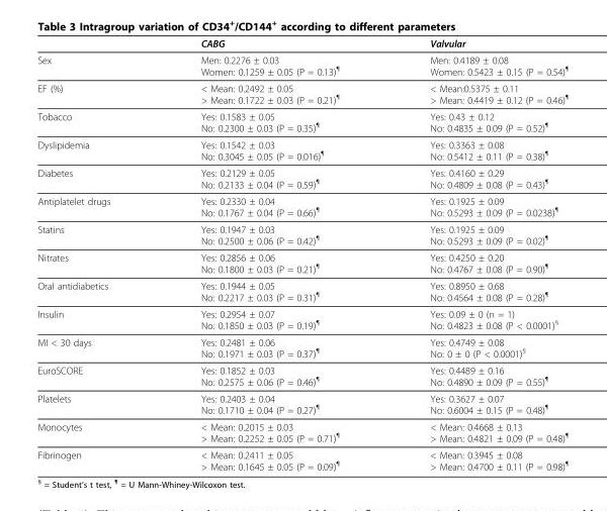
<table><thead><tr><td></td><td>CABG</td><td>Valvular</td></tr></thead><tbody><tr><td>Sex</td><td>Men: 0.2276 ± 0.03 Women: 0.1259 ± 0.05 (P = 0.13)¶</td><td>Men: 0.4189 ± 0.08 Women: 0.5423 ± 0.15 (P = 0.54)¶</td></tr><tr><td>EF (%)</td><td>&lt; Mean: 0.2492 ± 0.05 &gt; Mean: 0.1722 ± 0.03 (P = 0.21)¶</td><td>&lt; Mean:0.5375 ± 0.11 &gt; Mean: 0.4419 ± 0.12 (P = 0.46)¶</td></tr><tr><td>Tobacco</td><td>Yes: 0.1583 ± 0.05 No: 0.2300 ± 0.03 (P = 0.35)¶</td><td>Yes: 0.43 ± 0.12 No: 0.4835 ± 0.09 (P = 0.52)¶</td></tr><tr><td>Dyslipidemia</td><td>Yes: 0.1542 ± 0.03 No: 0.3045 ± 0.05 (P = 0.016)¶</td><td>Yes: 0.3363 ± 0.08 No: 0.5412 ± 0.11 (P = 0.38)¶</td></tr><tr><td>Diabetes</td><td>Yes: 0.2129 ± 0.05 No: 0.2133 ± 0.04 (P = 0.59)¶</td><td>Yes: 0.4160 ± 0.29 No: 0.4809 ± 0.08 (P = 0.43)¶</td></tr><tr><td>Antiplatelet drugs</td><td>Yes: 0.2330 ± 0.04 No: 0.1767 ± 0.04 (P = 0.66)¶</td><td>Yes: 0.1925 ± 0.09 No: 0.5293 ± 0.09 (P = 0.0238)¶</td></tr><tr><td>Statins</td><td>Yes: 0.1947 ± 0.03 No: 0.2500 ± 0.06 (P = 0.42)¶</td><td>Yes: 0.1925 ± 0.09 No: 0.5293 ± 0.09 (P = 0.02)¶</td></tr><tr><td>Nitrates</td><td>Yes: 0.2856 ± 0.06 No: 0.1800 ± 0.03 (P = 0.21)¶</td><td>Yes: 0.4250 ± 0.20 No: 0.4767 ± 0.08 (P = 0.90)¶</td></tr><tr><td>Oral antidiabetics</td><td>Yes: 0.1944 ± 0.05 No: 0.2217 ± 0.03 (P = 0.31)¶</td><td>Yes: 0.8950 ± 0.68 No: 0.4564 ± 0.08 (P = 0.28)¶</td></tr><tr><td>Insulin</td><td>Yes: 0.2954 ± 0.07 No: 0.1850 ± 0.03 (P = 0.19)¶</td><td>Yes: 0.09 ± 0 (n = 1) No: 0.4823 ± 0.08 (P &lt; 0.0001)§</td></tr><tr><td>MI &lt; 30 days</td><td>Yes: 0.2481 ± 0.06 No: 0.1971 ± 0.03 (P = 0.37)¶</td><td>Yes: 0.4749 ± 0.08 No: 0 ± 0 (P &lt; 0.0001)§</td></tr><tr><td>EuroSCORE</td><td>Yes: 0.1852 ± 0.03 No: 0.2575 ± 0.06 (P = 0.46)¶</td><td>Yes: 0.4489 ± 0.16 No: 0.4890 ± 0.09 (P = 0.55)¶</td></tr><tr><td>Platelets</td><td>Yes: 0.2403 ± 0.04 No: 0.1710 ± 0.04 (P = 0.27)¶</td><td>Yes: 0.3627 ± 0.07 No: 0.6004 ± 0.15 (P = 0.48)¶</td></tr><tr><td>Monocytes</td><td>&lt; Mean: 0.2015 ± 0.03 &gt; Mean: 0.2252 ± 0.05 (P = 0.71)¶</td><td>&lt; Mean: 0.4668 ± 0.13 &gt; Mean: 0.4821 ± 0.09 (P = 0.48)¶</td></tr><tr><td>Fibrinogen</td><td>&lt; Mean: 0.2411 ± 0.05 &gt; Mean: 0.1645 ± 0.05 (P = 0.09)¶</td><td>&lt; Mean: 0.3945 ± 0.08 &gt; Mean: 0.4700 ± 0.11 (P = 0.98)¶</td></tr></tbody></table>